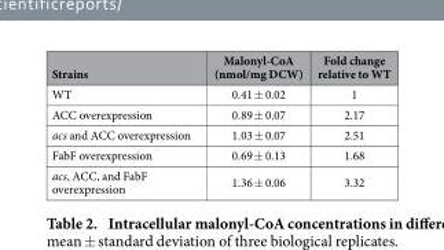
<table><thead><tr><td>Strains</td><td>Malonyl-CoA (nmol/mg DCW)</td><td>Fold change relative to WT</td></tr></thead><tbody><tr><td>WT</td><td>0.41 ± 0.02</td><td>1</td></tr><tr><td>ACC overexpression</td><td>0.89 ± 0.07</td><td>2.17</td></tr><tr><td>acs and ACC overexpression</td><td>1.03 ± 0.07</td><td>2.51</td></tr><tr><td>FabF overexpression</td><td>0.69 ± 0.13</td><td>1.68</td></tr><tr><td>acs, ACC, and FabF overexpression</td><td>1.36 ± 0.06</td><td>3.32</td></tr></tbody></table>